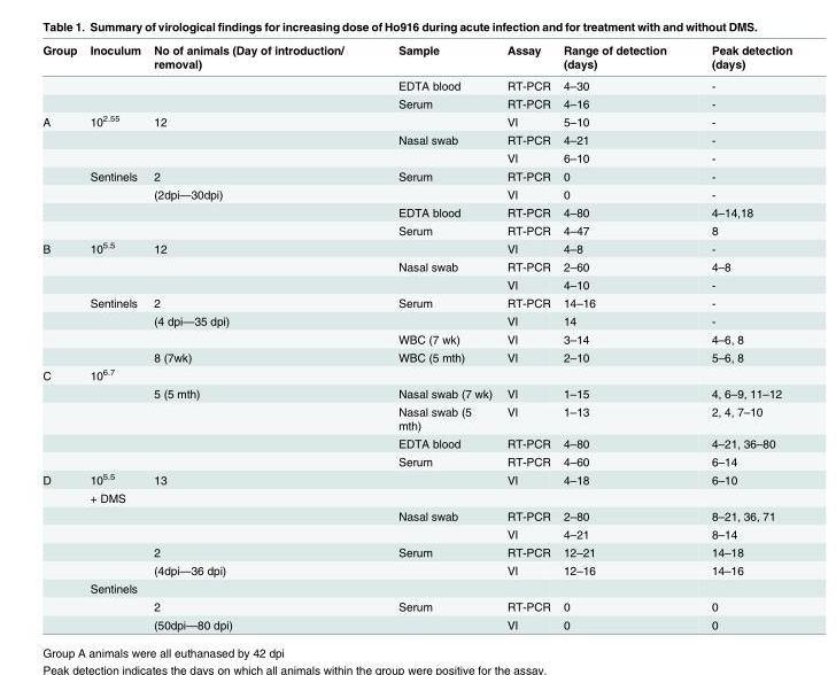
<table><thead><tr><td>Group</td><td>Inoculum</td><td>No of animals (Day of introduction/ removal)</td><td>Sample</td><td>Assay</td><td>Range of detection (days)</td><td>Peak detection (days)</td></tr></thead><tbody><tr><td></td><td></td><td></td><td>EDTA blood</td><td>RT-PCR</td><td>4–30</td><td>-</td></tr><tr><td></td><td></td><td></td><td>Serum</td><td>RT-PCR</td><td>4–16</td><td>-</td></tr><tr><td rowspan="7">A</td><td>10<sup>2.55</sup></td><td>12</td><td></td><td>VI</td><td>5–10</td><td>-</td></tr><tr><td></td><td></td><td>Nasal swab</td><td>RT-PCR</td><td>4–21</td><td>-</td></tr><tr><td></td><td></td><td></td><td>VI</td><td>6–10</td><td>-</td></tr><tr><td>Sentinels</td><td>2</td><td>Serum</td><td>RT-PCR</td><td>0</td><td>-</td></tr><tr><td></td><td>(2dpi—30dpi)</td><td></td><td>VI</td><td>0</td><td>-</td></tr><tr><td></td><td></td><td>EDTA blood</td><td>RT-PCR</td><td>4–80</td><td>4–14,18</td></tr><tr><td></td><td></td><td>Serum</td><td>RT-PCR</td><td>4–47</td><td>8</td></tr><tr><td rowspan="7">B</td><td>10<sup>5.5</sup></td><td>12</td><td></td><td>VI</td><td>4–8</td><td>-</td></tr><tr><td></td><td></td><td>Nasal swab</td><td>RT-PCR</td><td>2–60</td><td>4–8</td></tr><tr><td></td><td></td><td></td><td>VI</td><td>4–10</td><td>-</td></tr><tr><td>Sentinels</td><td>2</td><td>Serum</td><td>RT-PCR</td><td>14–16</td><td>-</td></tr><tr><td></td><td>(4 dpi—35 dpi)</td><td></td><td>VI</td><td>14</td><td>-</td></tr><tr><td></td><td></td><td>WBC (7 wk)</td><td>VI</td><td>3–14</td><td>4–6, 8</td></tr><tr><td></td><td>8 (7wk)</td><td>WBC (5 mth)</td><td>VI</td><td>2–10</td><td>5–6, 8</td></tr><tr><td rowspan="5">C</td><td>10<sup>6.7</sup></td><td></td><td></td><td></td><td></td><td></td></tr><tr><td></td><td>5 (5 mth)</td><td>Nasal swab (7 wk)</td><td>VI</td><td>1–15</td><td>4, 6–9, 11–12</td></tr><tr><td></td><td></td><td>Nasal swab (5 mth)</td><td>VI</td><td>1–13</td><td>2, 4, 7–10</td></tr><tr><td></td><td></td><td>EDTA blood</td><td>RT-PCR</td><td>4–80</td><td>4–21, 36–80</td></tr><tr><td></td><td></td><td>Serum</td><td>RT-PCR</td><td>4–60</td><td>6–14</td></tr><tr><td rowspan="9">D</td><td>10<sup>5.5</sup></td><td>13</td><td></td><td>VI</td><td>4–18</td><td>6–10</td></tr><tr><td>+ DMS</td><td></td><td></td><td></td><td></td><td></td></tr><tr><td></td><td></td><td>Nasal swab</td><td>RT-PCR</td><td>2–80</td><td>8–21, 36, 71</td></tr><tr><td></td><td></td><td></td><td>VI</td><td>4–21</td><td>8–14</td></tr><tr><td></td><td>2</td><td>Serum</td><td>RT-PCR</td><td>12–21</td><td>14–18</td></tr><tr><td></td><td>(4dpi—36 dpi)</td><td></td><td>VI</td><td>12–16</td><td>14–16</td></tr><tr><td>Sentinels</td><td></td><td></td><td></td><td></td><td></td></tr><tr><td></td><td>2</td><td>Serum</td><td>RT-PCR</td><td>0</td><td>0</td></tr><tr><td></td><td>(50dpi—80 dpi)</td><td></td><td>VI</td><td>0</td><td>0</td></tr></tbody></table>